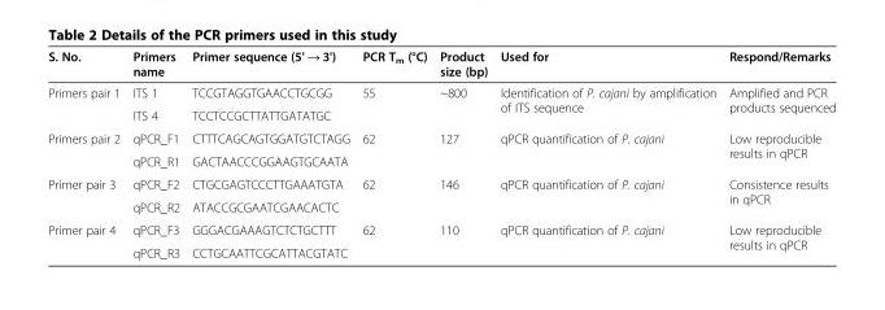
<table><thead><tr><td>S. No.</td><td>Primers name</td><td>Primer sequence (5&#x27; → 3&#x27;)</td><td>PCR T<sub>m</sub> (°C)</td><td>Product size (bp)</td><td>Used for</td><td>Respond/Remarks</td></tr></thead><tbody><tr><td rowspan="2">Primers pair 1</td><td>ITS 1</td><td>TCCGTAGGTGAACCTGCGG</td><td rowspan="2">55</td><td rowspan="2">~800</td><td rowspan="2">Identification of P. cajani by amplification of ITS sequence</td><td rowspan="2">Amplified and PCR products sequenced</td></tr><tr><td>ITS 4</td><td>TCCTCCGCTTATTGATATGC</td></tr><tr><td rowspan="2">Primers pair 2</td><td>qPCR_F1</td><td>CTTTCAGCAGTGGATGTCTAGG</td><td rowspan="2">62</td><td rowspan="2">127</td><td rowspan="2">qPCR quantification of P. cajani</td><td rowspan="2">Low reproducible results in qPCR</td></tr><tr><td>qPCR_R1</td><td>GACTAACCCGGAAGTGCAATA</td></tr><tr><td rowspan="2">Primer pair 3</td><td>qPCR_F2</td><td>CTGCGAGTCCCTTGAAATGTA</td><td rowspan="2">62</td><td rowspan="2">146</td><td rowspan="2">qPCR quantification of P. cajani</td><td rowspan="2">Consistence results in qPCR</td></tr><tr><td>qPCR_R2</td><td>ATACCGCGAATCGAACACTC</td></tr><tr><td rowspan="2">Primer pair 4</td><td>qPCR_F3</td><td>GGGACGAAAGTCTCTGCTTT</td><td rowspan="2">62</td><td rowspan="2">110</td><td rowspan="2">qPCR quantification of P. cajani</td><td rowspan="2">Low reproducible results in qPCR</td></tr><tr><td>qPCR_R3</td><td>CCTGCAATTCGCATTACGTATC</td></tr></tbody></table>